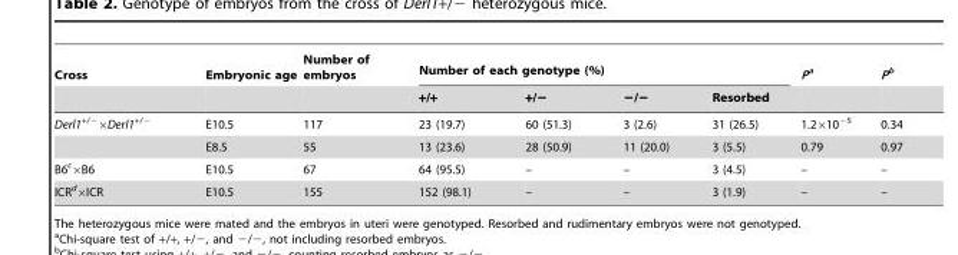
<table><thead><tr><td rowspan="2">Cross</td><td rowspan="2">Embryonic age</td><td rowspan="2">Number of embryos</td><td colspan="4">Number of each genotype (%)</td><td rowspan="2">Pa</td><td rowspan="2">Pb</td></tr><tr><td>+/+</td><td>+/−</td><td>−/−</td><td>Resorbed</td></tr></thead><tbody><tr><td rowspan="2">Derl1<sup>+/−</sup>×Derl1<sup>+/−</sup></td><td>E10.5</td><td>117</td><td>23 (19.7)</td><td>60 (51.3)</td><td>3 (2.6)</td><td>31 (26.5)</td><td>1.2×10<sup>−5</sup></td><td>0.34</td></tr><tr><td>E8.5</td><td>55</td><td>13 (23.6)</td><td>28 (50.9)</td><td>11 (20.0)</td><td>3 (5.5)</td><td>0.79</td><td>0.97</td></tr><tr><td>B6<sup>c</sup>×B6</td><td>E10.5</td><td>67</td><td>64 (95.5)</td><td>–</td><td>–</td><td>3 (4.5)</td><td>–</td><td>–</td></tr><tr><td>ICR<sup>d</sup>×ICR</td><td>E10.5</td><td>155</td><td>152 (98.1)</td><td>–</td><td>–</td><td>3 (1.9)</td><td>–</td><td>–</td></tr></tbody></table>